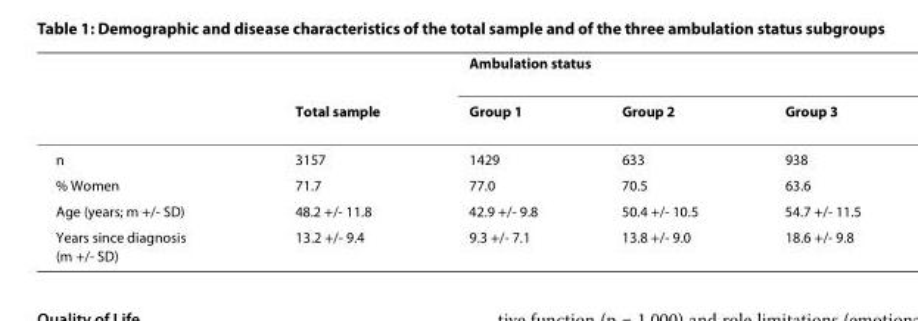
<table><thead><tr><td rowspan="2"></td><td rowspan="2">Total sample</td><td colspan="3">Ambulation status</td></tr><tr><td>Group 1</td><td>Group 2</td><td>Group 3</td></tr></thead><tbody><tr><td>n</td><td>3157</td><td>1429</td><td>633</td><td>938</td></tr><tr><td>% Women</td><td>71.7</td><td>77.0</td><td>70.5</td><td>63.6</td></tr><tr><td>Age (years; m +/- SD)</td><td>48.2 +/- 11.8</td><td>42.9 +/- 9.8</td><td>50.4 +/- 10.5</td><td>54.7 +/- 11.5</td></tr><tr><td>Years since diagnosis (m +/- SD)</td><td>13.2 +/- 9.4</td><td>9.3 +/- 7.1</td><td>13.8 +/- 9.0</td><td>18.6 +/- 9.8</td></tr></tbody></table>